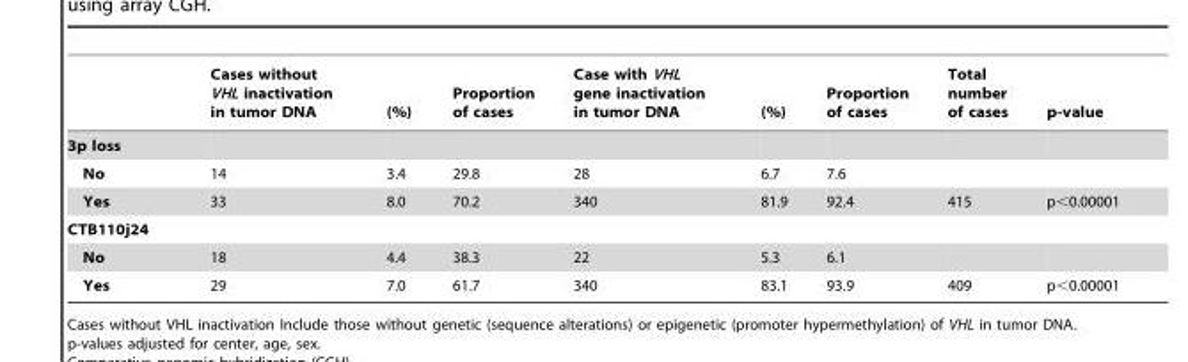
<table><thead><tr><td></td><td>Cases without VHL inactivation in tumor DNA</td><td>(%)</td><td>Proportion of cases</td><td>Case with VHL gene inactivation in tumor DNA</td><td>(%)</td><td>Proportion of cases</td><td>Total number of cases</td><td>p-value</td></tr></thead><tbody><tr><td colspan="9">3p loss</td></tr><tr><td>No</td><td>14</td><td>3.4</td><td>29.8</td><td>28</td><td>6.7</td><td>7.6</td><td></td><td></td></tr><tr><td>Yes</td><td>33</td><td>8.0</td><td>70.2</td><td>340</td><td>81.9</td><td>92.4</td><td>415</td><td>p&lt;0.00001</td></tr><tr><td colspan="9">CTB110j24</td></tr><tr><td>No</td><td>18</td><td>4.4</td><td>38.3</td><td>22</td><td>5.3</td><td>6.1</td><td></td><td></td></tr><tr><td>Yes</td><td>29</td><td>7.0</td><td>61.7</td><td>340</td><td>83.1</td><td>93.9</td><td>409</td><td>p&lt;0.00001</td></tr></tbody></table>